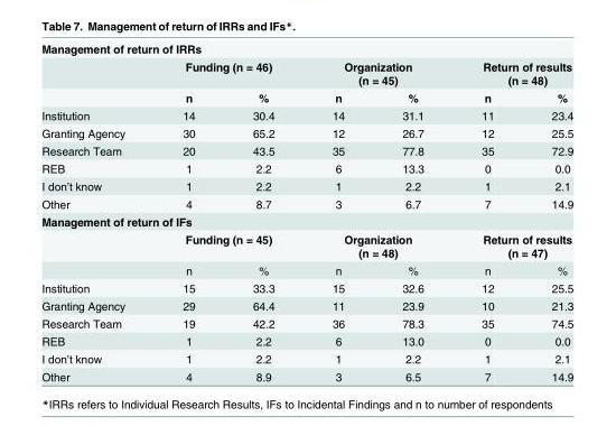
<table><tbody><tr><td colspan="7">Management of return of IRRs</td></tr><tr><td></td><td colspan="2">Funding (n = 46)</td><td colspan="2">Organization (n = 45)</td><td colspan="2">Return of results (n = 48)</td></tr><tr><td></td><td>n</td><td>%</td><td>n</td><td>%</td><td>n</td><td>%</td></tr><tr><td>Institution</td><td>14</td><td>30.4</td><td>14</td><td>31.1</td><td>11</td><td>23.4</td></tr><tr><td>Granting Agency</td><td>30</td><td>65.2</td><td>12</td><td>26.7</td><td>12</td><td>25.5</td></tr><tr><td>Research Team</td><td>20</td><td>43.5</td><td>35</td><td>77.8</td><td>35</td><td>72.9</td></tr><tr><td>REB</td><td>1</td><td>2.2</td><td>6</td><td>13.3</td><td>0</td><td>0.0</td></tr><tr><td>I don’t know</td><td>1</td><td>2.2</td><td>1</td><td>2.2</td><td>1</td><td>2.1</td></tr><tr><td>Other</td><td>4</td><td>8.7</td><td>3</td><td>6.7</td><td>7</td><td>14.9</td></tr><tr><td colspan="7">Management of return of IFs</td></tr><tr><td></td><td colspan="2">Funding (n = 45)</td><td colspan="2">Organization (n = 48)</td><td colspan="2">Return of results (n = 47)</td></tr><tr><td></td><td>n</td><td>%</td><td>n</td><td>%</td><td>n</td><td>%</td></tr><tr><td>Institution</td><td>15</td><td>33.3</td><td>15</td><td>32.6</td><td>12</td><td>25.5</td></tr><tr><td>Granting Agency</td><td>29</td><td>64.4</td><td>11</td><td>23.9</td><td>10</td><td>21.3</td></tr><tr><td>Research Team</td><td>19</td><td>42.2</td><td>36</td><td>78.3</td><td>35</td><td>74.5</td></tr><tr><td>REB</td><td>1</td><td>2.2</td><td>6</td><td>13.0</td><td>0</td><td>0.0</td></tr><tr><td>I don’t know</td><td>1</td><td>2.2</td><td>1</td><td>2.2</td><td>1</td><td>2.1</td></tr><tr><td>Other</td><td>4</td><td>8.9</td><td>3</td><td>6.5</td><td>7</td><td>14.9</td></tr></tbody></table>